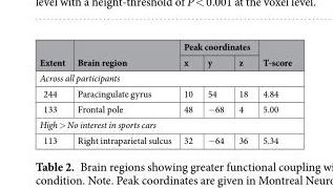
<table><thead><tr><td rowspan="2">Extent</td><td rowspan="2">Brain region</td><td colspan="3">Peak coordinates</td><td rowspan="2">T-score</td></tr><tr><td>x</td><td>y</td><td>z</td></tr></thead><tbody><tr><td colspan="6">Across all participants</td></tr><tr><td>244</td><td>Paracingulate gyrus</td><td>10</td><td>54</td><td>18</td><td>4.84</td></tr><tr><td>133</td><td>Frontal pole</td><td>48</td><td>−68</td><td>4</td><td>5.00</td></tr><tr><td colspan="6">High &gt; No interest in sports cars</td></tr><tr><td>113</td><td>Right intraparietal sulcus</td><td>32</td><td>−64</td><td>36</td><td>5.34</td></tr></tbody></table>